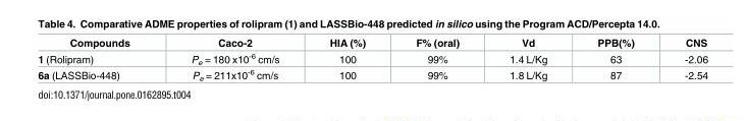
<table><thead><tr><td>Compounds</td><td>Caco-2</td><td>HIA (%)</td><td>F% (oral)</td><td>Vd</td><td>PPB(%)</td><td>CNS</td></tr></thead><tbody><tr><td>1 (Rolipram)</td><td>P<sub>e</sub> = 180 x10<sup>-6</sup> cm/s</td><td>100</td><td>99%</td><td>1.4 L/Kg</td><td>63</td><td>-2.06</td></tr><tr><td>6a (LASSBio-448)</td><td>P<sub>e</sub> = 211x10<sup>-6</sup> cm/s</td><td>100</td><td>99%</td><td>1.8 L/Kg</td><td>87</td><td>-2.54</td></tr></tbody></table>